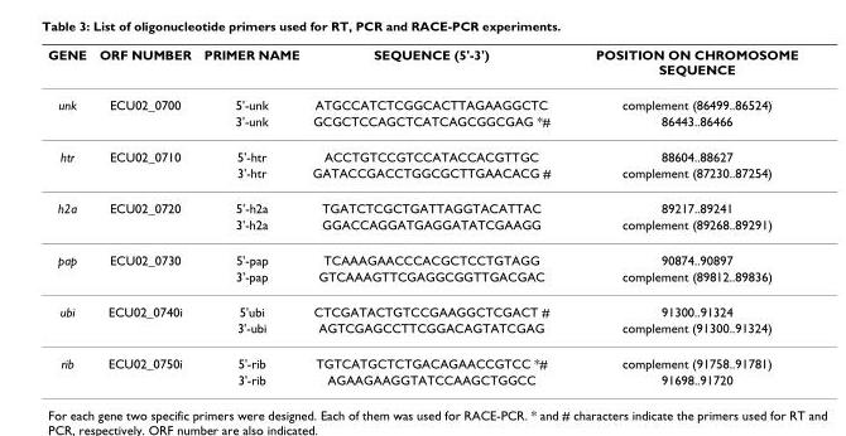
<table><thead><tr><td>GENE</td><td>ORF NUMBER</td><td>PRIMER NAME</td><td>SEQUENCE (5&#x27;-3&#x27;)</td><td>POSITION ON CHROMOSOME SEQUENCE</td></tr></thead><tbody><tr><td rowspan="2">unk</td><td>ECU02_0700</td><td>5&#x27;-unk</td><td>ATGCCATCTCGGCACTTAGAAGGCTC</td><td>complement (86499..86524)</td></tr><tr><td></td><td>3&#x27;-unk</td><td>GCGCTCCAGCTCATCAGCGGCGAG *#</td><td>86443..86466</td></tr><tr><td rowspan="2">htr</td><td>ECU02_0710</td><td>5&#x27;-htr</td><td>ACCTGTCCGTCCATACCACGTTGC</td><td>88604..88627</td></tr><tr><td></td><td>3&#x27;-htr</td><td>GATACCGACCTGGCGCTTGAACACG #</td><td>complement (87230..87254)</td></tr><tr><td rowspan="2">h2a</td><td>ECU02_0720</td><td>5&#x27;-h2a</td><td>TGATCTCGCTGATTAGGTACATTAC</td><td>89217..89241</td></tr><tr><td></td><td>3&#x27;-h2a</td><td>GGACCAGGATGAGGATATCGAAGG</td><td>complement (89268..89291)</td></tr><tr><td rowspan="2">pap</td><td>ECU02_0730</td><td>5&#x27;-pap</td><td>TCAAAGAACCCACGCTCCTGTAGG</td><td>90874..90897</td></tr><tr><td></td><td>3&#x27;-pap</td><td>GTCAAAGTTCGAGGCGGTTGACGAC</td><td>complement (89812..89836)</td></tr><tr><td rowspan="2">ubi</td><td>ECU02_0740i</td><td>5&#x27;ubi</td><td>CTCGATACTGTCCGAAGGCTCGACT #</td><td>91300..91324</td></tr><tr><td></td><td>3&#x27;-ubi</td><td>AGTCGAGCCTTCGGACAGTATCGAG</td><td>complement (91300..91324)</td></tr><tr><td rowspan="2">rib</td><td>ECU02_0750i</td><td>5&#x27;-rib</td><td>TGTCATGCTCTGACAGAACCGTCC *#</td><td>complement (91758..91781)</td></tr><tr><td></td><td>3&#x27;-rib</td><td>AGAAGAAGGTATCCAAGCTGGCC</td><td>91698..91720</td></tr></tbody></table>